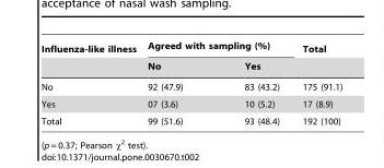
<table><thead><tr><td rowspan="2">Influenza-like illness</td><td colspan="2">Agreed with sampling (%)</td><td rowspan="2">Total</td></tr><tr><td>No</td><td>Yes</td></tr></thead><tbody><tr><td>No</td><td>92 (47.9)</td><td>83 (43.2)</td><td>175 (91.1)</td></tr><tr><td>Yes</td><td>07 (3.6)</td><td>10 (5.2)</td><td>17 (8.9)</td></tr><tr><td>Total</td><td>99 (51.6)</td><td>93 (48.4)</td><td>192 (100)</td></tr></tbody></table>